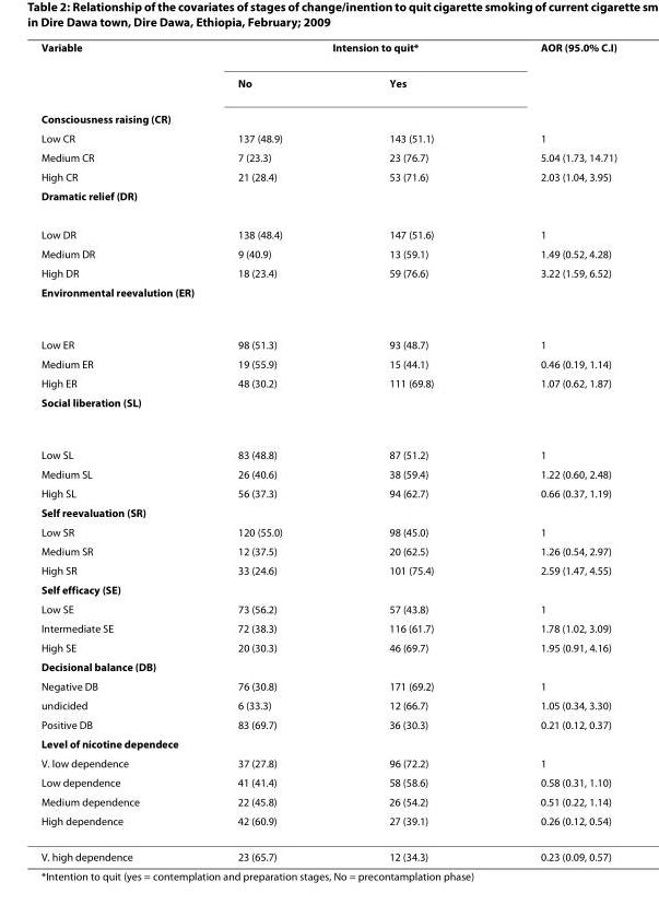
<table><thead><tr><td rowspan="35">Variable Consciousness raising (CR) Low CR Medium CR High CR Dramatic relief (DR) Low DR Medium DR High DR Environmental reevalution (ER) Low ER Medium ER High ER Social liberation (SL) Low SL Medium SL High SL Self reevaluation (SR) Low SR Medium SR High SR Self efficacy (SE) Low SE Intermediate SE High SE Decisional balance (DB) Negative DB undicided Positive DB Level of nicotine dependece V. low dependence Low dependence Medium dependence High dependence</td><td colspan="2">Intension to quit*</td><td rowspan="35">AOR (95.0% C.I) 1 5.04 (1.73, 14.71) 2.03 (1.04, 3.95) 1 1.49 (0.52, 4.28) 3.22 (1.59, 6.52) 1 0.46 (0.19, 1.14) 1.07 (0.62, 1.87) 1 1.22 (0.60, 2.48) 0.66 (0.37, 1.19) 1 1.26 (0.54, 2.97) 2.59 (1.47, 4.55) 1 1.78 (1.02, 3.09) 1.95 (0.91, 4.16) 1 1.05 (0.34, 3.30) 0.21 (0.12, 0.37) 1 0.58 (0.31, 1.10) 0.51 (0.22, 1.14) 0.26 (0.12, 0.54)</td></tr><tr><td rowspan="34">No 137 (48.9) 7 (23.3) 21 (28.4) 138 (48.4) 9 (40.9) 18 (23.4) 98 (51.3) 19 (55.9) 48 (30.2) 83 (48.8) 26 (40.6) 56 (37.3) 120 (55.0) 12 (37.5) 33 (24.6) 73 (56.2) 72 (38.3) 20 (30.3) 76 (30.8) 6 (33.3) 83 (69.7) 37 (27.8) 41 (41.4) 22 (45.8) 42 (60.9)</td><td rowspan="34">Yes 143 (51.1) 23 (76.7) 53 (71.6) 147 (51.6) 13 (59.1) 59 (76.6) 93 (48.7) 15 (44.1) 111 (69.8) 87 (51.2) 38 (59.4) 94 (62.7) 98 (45.0) 20 (62.5) 101 (75.4) 57 (43.8) 116 (61.7) 46 (69.7) 171 (69.2) 12 (66.7) 36 (30.3) 96 (72.2) 58 (58.6) 26 (54.2) 27 (39.1)</td></tr><tr></tr><tr></tr><tr></tr><tr></tr><tr></tr><tr></tr><tr></tr><tr></tr><tr></tr><tr></tr><tr></tr><tr></tr><tr></tr><tr></tr><tr></tr><tr></tr><tr></tr><tr></tr><tr></tr><tr></tr><tr></tr><tr></tr><tr></tr><tr></tr><tr></tr><tr></tr><tr></tr><tr></tr><tr></tr><tr></tr><tr></tr><tr></tr><tr></tr></thead><tbody><tr><td>V. high dependence</td><td>23 (65.7)</td><td>12 (34.3)</td><td>0.23 (0.09, 0.57)</td></tr></tbody></table>